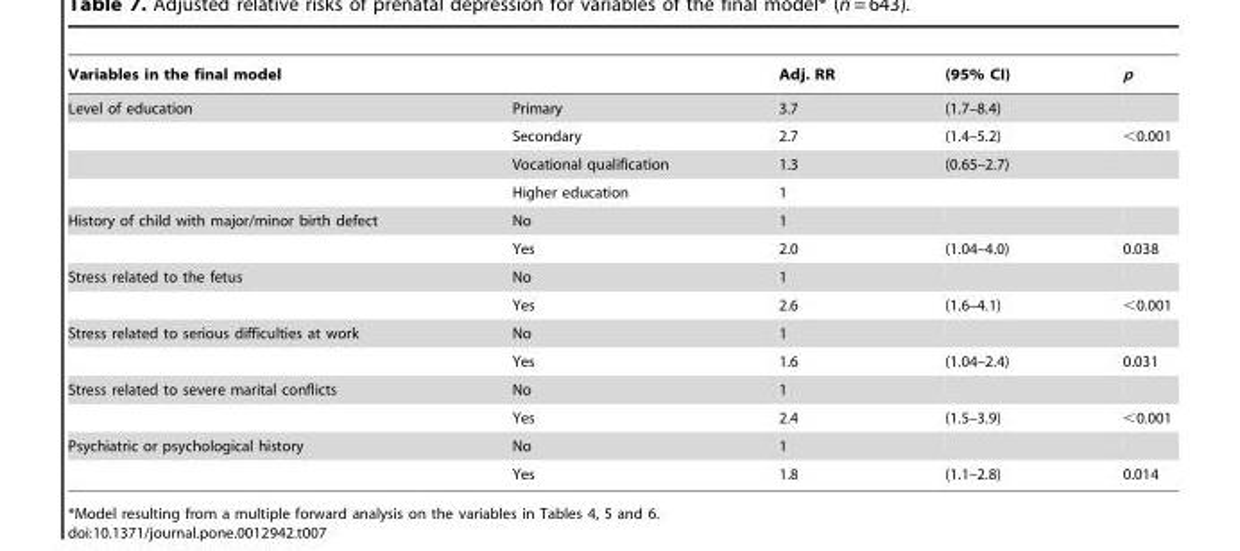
<table><thead><tr><td>Variables in the final model</td><td></td><td>Adj. RR</td><td>(95% CI)</td><td>p</td></tr></thead><tbody><tr><td rowspan="4">Level of education</td><td>Primary</td><td>3.7</td><td>(1.7–8.4)</td><td></td></tr><tr><td>Secondary</td><td>2.7</td><td>(1.4–5.2)</td><td>&lt;0.001</td></tr><tr><td>Vocational qualification</td><td>1.3</td><td>(0.65–2.7)</td><td></td></tr><tr><td>Higher education</td><td>1</td><td></td><td></td></tr><tr><td rowspan="2">History of child with major/minor birth defect</td><td>No</td><td>1</td><td></td><td></td></tr><tr><td>Yes</td><td>2.0</td><td>(1.04–4.0)</td><td>0.038</td></tr><tr><td rowspan="2">Stress related to the fetus</td><td>No</td><td>1</td><td></td><td></td></tr><tr><td>Yes</td><td>2.6</td><td>(1.6–4.1)</td><td>&lt;0.001</td></tr><tr><td rowspan="2">Stress related to serious difficulties at work</td><td>No</td><td>1</td><td></td><td></td></tr><tr><td>Yes</td><td>1.6</td><td>(1.04–2.4)</td><td>0.031</td></tr><tr><td rowspan="2">Stress related to severe marital conflicts</td><td>No</td><td>1</td><td></td><td></td></tr><tr><td>Yes</td><td>2.4</td><td>(1.5–3.9)</td><td>&lt;0.001</td></tr><tr><td rowspan="2">Psychiatric or psychological history</td><td>No</td><td>1</td><td></td><td></td></tr><tr><td>Yes</td><td>1.8</td><td>(1.1–2.8)</td><td>0.014</td></tr></tbody></table>